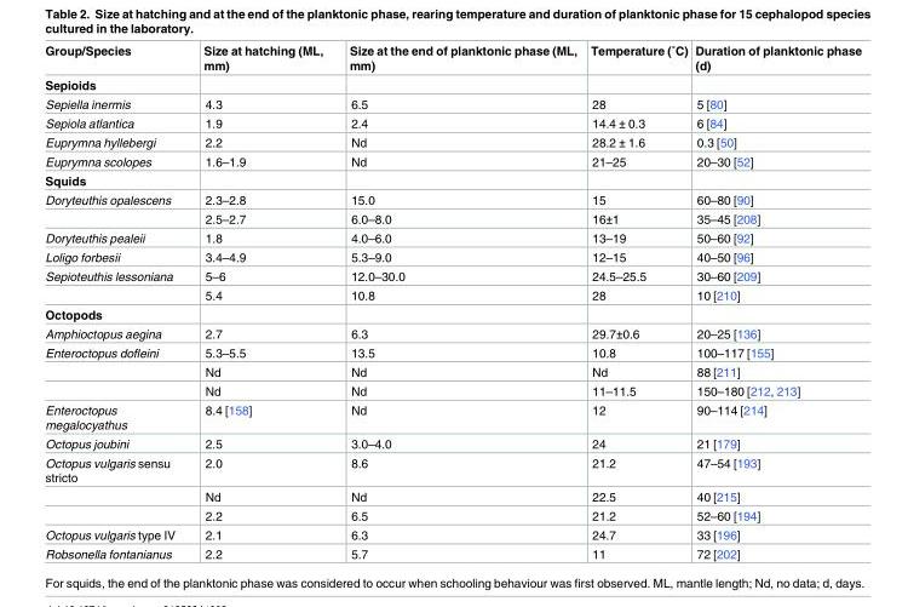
<table><thead><tr><td>Group/Species</td><td>Size at hatching (ML, mm)</td><td>Size at the end of planktonic phase (ML, mm)</td><td>Temperature (˚C)</td><td>Duration of planktonic phase (d)</td></tr></thead><tbody><tr><td colspan="5">Sepioids</td></tr><tr><td>Sepiella inermis</td><td>4.3</td><td>6.5</td><td>28</td><td>5 [80]</td></tr><tr><td>Sepiola atlantica</td><td>1.9</td><td>2.4</td><td>14.4 ± 0.3</td><td>6 [84]</td></tr><tr><td>Euprymna hyllebergi</td><td>2.2</td><td>Nd</td><td>28.2 ± 1.6</td><td>0.3 [50]</td></tr><tr><td>Euprymna scolopes</td><td>1.6–1.9</td><td>Nd</td><td>21–25</td><td>20–30 [52]</td></tr><tr><td colspan="5">Squids</td></tr><tr><td rowspan="2">Doryteuthis opalescens</td><td>2.3–2.8</td><td>15.0</td><td>15</td><td>60–80 [90]</td></tr><tr><td>2.5–2.7</td><td>6.0–8.0</td><td>16±1</td><td>35–45 [208]</td></tr><tr><td>Doryteuthis pealeii</td><td>1.8</td><td>4.0–6.0</td><td>13–19</td><td>50–60 [92]</td></tr><tr><td>Loligo forbesii</td><td>3.4–4.9</td><td>5.3–9.0</td><td>12–15</td><td>40–50 [96]</td></tr><tr><td rowspan="2">Sepioteuthis lessoniana</td><td>5–6</td><td>12.0–30.0</td><td>24.5–25.5</td><td>30–60 [209]</td></tr><tr><td>5.4</td><td>10.8</td><td>28</td><td>10 [210]</td></tr><tr><td colspan="5">Octopods</td></tr><tr><td>Amphioctopus aegina</td><td>2.7</td><td>6.3</td><td>29.7±0.6</td><td>20–25 [136]</td></tr><tr><td rowspan="3">Enteroctopus dofleini</td><td>5.3–5.5</td><td>13.5</td><td>10.8</td><td>100–117 [155]</td></tr><tr><td>Nd</td><td>Nd</td><td>Nd</td><td>88 [211]</td></tr><tr><td>Nd</td><td>Nd</td><td>11–11.5</td><td>150–180 [212, 213]</td></tr><tr><td>Enteroctopus megalocyathus</td><td>8.4 [158]</td><td>Nd</td><td>12</td><td>90–114 [214]</td></tr><tr><td>Octopus joubini</td><td>2.5</td><td>3.0–4.0</td><td>24</td><td>21 [179]</td></tr><tr><td rowspan="3">Octopus vulgaris sensu stricto</td><td>2.0</td><td>8.6</td><td>21.2</td><td>47–54 [193]</td></tr><tr><td>Nd</td><td>Nd</td><td>22.5</td><td>40 [215]</td></tr><tr><td>2.2</td><td>6.5</td><td>21.2</td><td>52–60 [194]</td></tr><tr><td>Octopus vulgaris type IV</td><td>2.1</td><td>6.3</td><td>24.7</td><td>33 [196]</td></tr><tr><td>Robsonella fontanianus</td><td>2.2</td><td>5.7</td><td>11</td><td>72 [202]</td></tr></tbody></table>